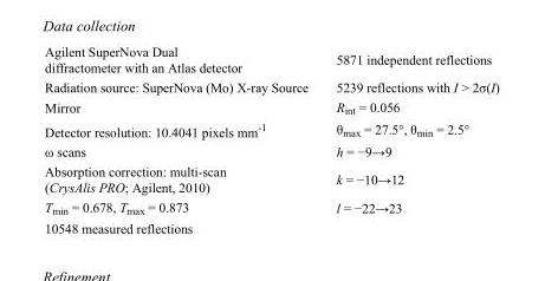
<table><tbody><tr><td>Agilent SuperNova Dual diffractometer with an Atlas detector</td><td>5871 independent reflections</td></tr><tr><td>Radiation source: SuperNova (Mo) X-ray Source</td><td>5239 reflections with I &gt; 2σ(I)</td></tr><tr><td>Mirror</td><td>R<sub>int</sub> = 0.056</td></tr><tr><td>Detector resolution: 10.4041 pixels mm<sup>-1</sup></td><td>θ<sub>max</sub> = 27.5°, θ<sub>min</sub> = 2.5°</td></tr><tr><td>ω scans</td><td>h = −9→9</td></tr><tr><td>Absorption correction: multi-scan (CrysAlis PRO; Agilent, 2010)</td><td>k = −10→12</td></tr><tr><td>T<sub>min</sub> = 0.678, T<sub>max</sub> = 0.873</td><td>l = −22→23</td></tr><tr><td>10548 measured reflections</td><td></td></tr></tbody></table>